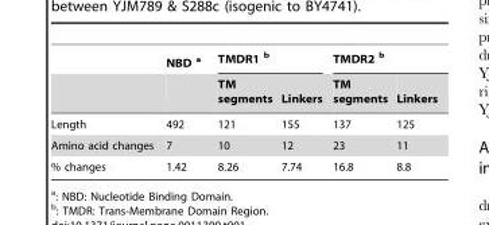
<table><thead><tr><td rowspan="2"></td><td rowspan="2">NBD a</td><td colspan="2">TMDR1 b</td><td colspan="2">TMDR2 b</td></tr><tr><td>TM segments</td><td>Linkers</td><td>TM segments</td><td>Linkers</td></tr></thead><tbody><tr><td>Length</td><td>492</td><td>121</td><td>155</td><td>137</td><td>125</td></tr><tr><td>Amino acid changes</td><td>7</td><td>10</td><td>12</td><td>23</td><td>11</td></tr><tr><td>% changes</td><td>1.42</td><td>8.26</td><td>7.74</td><td>16.8</td><td>8.8</td></tr></tbody></table>